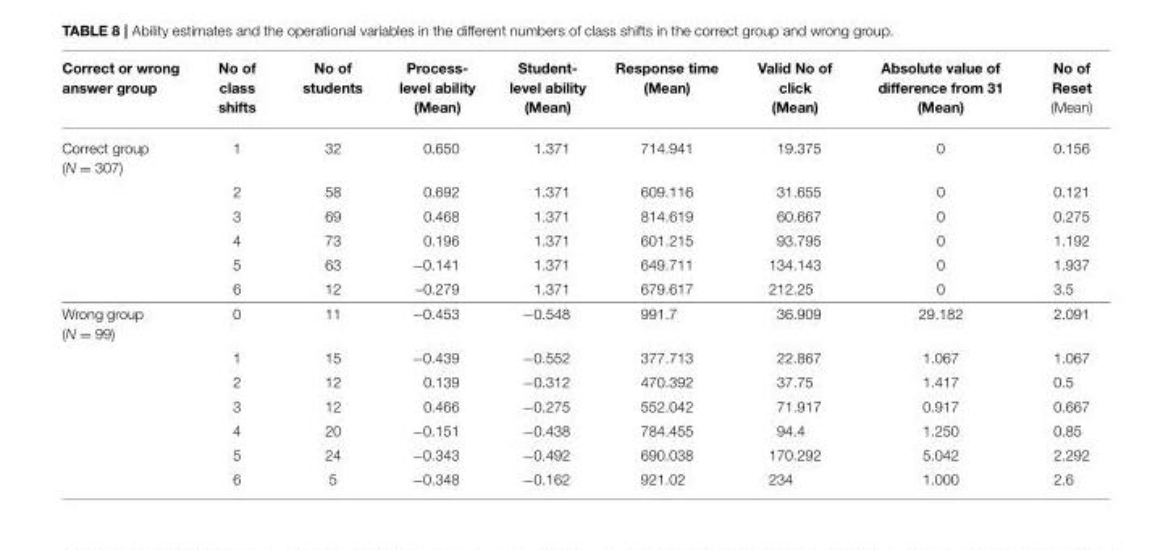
<table><thead><tr><td>Correct or wrong answer group</td><td>No of class shifts</td><td>No of students</td><td>Process- level ability (Mean)</td><td>Student- level ability (Mean)</td><td>Response time (Mean)</td><td>Valid No of click (Mean)</td><td>Absolute value of difference from 31 (Mean)</td><td>No of Reset (Mean)</td></tr></thead><tbody><tr><td rowspan="6">Correct group (N = 307)</td><td>1</td><td>32</td><td>0.650</td><td>1.371</td><td>714.941</td><td>19.375</td><td>0</td><td>0.156</td></tr><tr><td>2</td><td>58</td><td>0.692</td><td>1.371</td><td>609.116</td><td>31.655</td><td>0</td><td>0.121</td></tr><tr><td>3</td><td>69</td><td>0.468</td><td>1.371</td><td>814.619</td><td>60.667</td><td>0</td><td>0.275</td></tr><tr><td>4</td><td>73</td><td>0.196</td><td>1.371</td><td>601.215</td><td>93.795</td><td>0</td><td>1.192</td></tr><tr><td>5</td><td>63</td><td>−0.141</td><td>1.371</td><td>649.711</td><td>134.143</td><td>0</td><td>1.937</td></tr><tr><td>6</td><td>12</td><td>–0.279</td><td>1.371</td><td>679.617</td><td>212.25</td><td>0</td><td>3.5</td></tr><tr><td rowspan="7">Wrong group (N = 99)</td><td>0</td><td>11</td><td>−0.453</td><td>−0.548</td><td>991.7</td><td>36.909</td><td>29.182</td><td>2.091</td></tr><tr><td>1</td><td>15</td><td>−0.439</td><td>−0.552</td><td>377.713</td><td>22.867</td><td>1.067</td><td>1.067</td></tr><tr><td>2</td><td>12</td><td>0.139</td><td>−0.312</td><td>470.392</td><td>37.75</td><td>1.417</td><td>0.5</td></tr><tr><td>3</td><td>12</td><td>0.466</td><td>−0.275</td><td>552.042</td><td>71.917</td><td>0.917</td><td>0.667</td></tr><tr><td>4</td><td>20</td><td>−0.151</td><td>−0.438</td><td>784.455</td><td>94.4</td><td>1.250</td><td>0.85</td></tr><tr><td>5</td><td>24</td><td>−0.343</td><td>−0.492</td><td>690.038</td><td>170.292</td><td>5.042</td><td>2.292</td></tr><tr><td>6</td><td>5</td><td>−0.348</td><td>−0.162</td><td>921.02</td><td>234</td><td>1.000</td><td>2.6</td></tr></tbody></table>